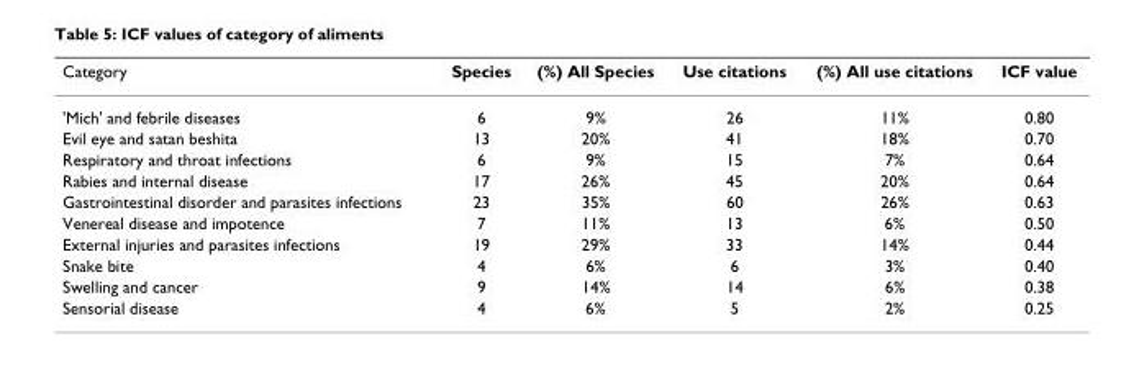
<table><thead><tr><td>Category</td><td>Species</td><td>(%) All Species</td><td>Use citations</td><td>(%) All use citations</td><td>ICF value</td></tr></thead><tbody><tr><td>&#x27;Mich&#x27; and febrile diseases</td><td>6</td><td>9%</td><td>26</td><td>11%</td><td>0.80</td></tr><tr><td>Evil eye and satan beshita</td><td>13</td><td>20%</td><td>41</td><td>18%</td><td>0.70</td></tr><tr><td>Respiratory and throat infections</td><td>6</td><td>9%</td><td>15</td><td>7%</td><td>0.64</td></tr><tr><td>Rabies and internal disease</td><td>17</td><td>26%</td><td>45</td><td>20%</td><td>0.64</td></tr><tr><td>Gastrointestinal disorder and parasites infections</td><td>23</td><td>35%</td><td>60</td><td>26%</td><td>0.63</td></tr><tr><td>Venereal disease and impotence</td><td>7</td><td>11%</td><td>13</td><td>6%</td><td>0.50</td></tr><tr><td>External injuries and parasites infections</td><td>19</td><td>29%</td><td>33</td><td>14%</td><td>0.44</td></tr><tr><td>Snake bite</td><td>4</td><td>6%</td><td>6</td><td>3%</td><td>0.40</td></tr><tr><td>Swelling and cancer</td><td>9</td><td>14%</td><td>14</td><td>6%</td><td>0.38</td></tr><tr><td>Sensorial disease</td><td>4</td><td>6%</td><td>5</td><td>2%</td><td>0.25</td></tr></tbody></table>